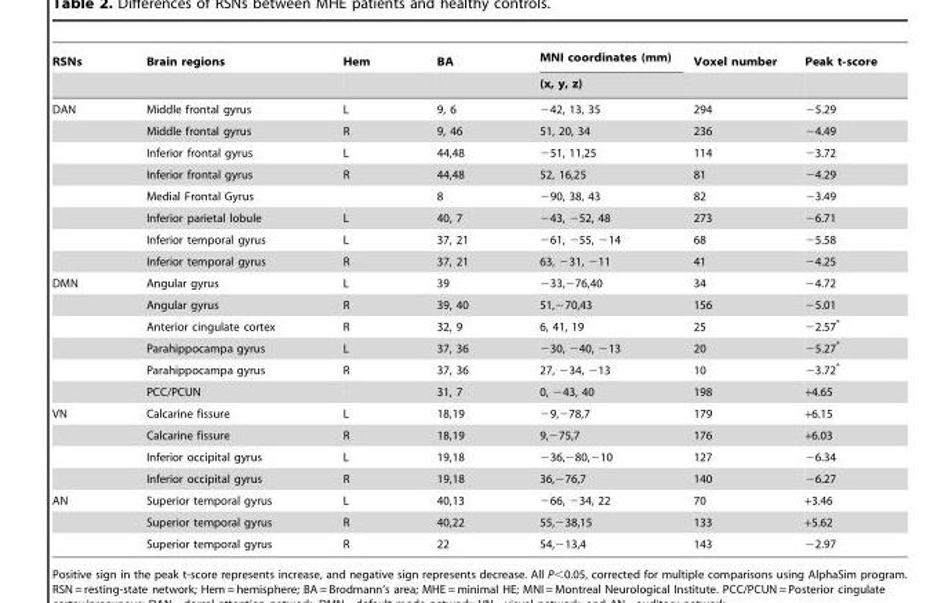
<table><thead><tr><td rowspan="2">RSNs</td><td rowspan="2">Brain regions</td><td rowspan="2">Hem</td><td rowspan="2">BA</td><td rowspan="2">MNI coordinates (mm) (x, y, z)</td><td rowspan="2">Voxel number</td><td rowspan="2">Peak t-score</td></tr><tr></tr></thead><tbody><tr><td rowspan="8">DAN</td><td>Middle frontal gyrus</td><td>L</td><td>9, 6</td><td>−42, 13, 35</td><td>294</td><td>−5.29</td></tr><tr><td>Middle frontal gyrus</td><td>R</td><td>9, 46</td><td>51, 20, 34</td><td>236</td><td>−4.49</td></tr><tr><td>Inferior frontal gyrus</td><td>L</td><td>44,48</td><td>−51, 11,25</td><td>114</td><td>−3.72</td></tr><tr><td>Inferior frontal gyrus</td><td>R</td><td>44,48</td><td>52, 16,25</td><td>81</td><td>−4.29</td></tr><tr><td>Medial Frontal Gyrus</td><td></td><td>8</td><td>−90, 38, 43</td><td>82</td><td>−3.49</td></tr><tr><td>Inferior parietal lobule</td><td>L</td><td>40, 7</td><td>−43, −52, 48</td><td>273</td><td>−6.71</td></tr><tr><td>Inferior temporal gyrus</td><td>L</td><td>37, 21</td><td>−61, −55, −14</td><td>68</td><td>−5.58</td></tr><tr><td>Inferior temporal gyrus</td><td>R</td><td>37, 21</td><td>63, −31, −11</td><td>41</td><td>−4.25</td></tr><tr><td rowspan="6">DMN</td><td>Angular gyrus</td><td>L</td><td>39</td><td>−33,−76,40</td><td>34</td><td>−4.72</td></tr><tr><td>Angular gyrus</td><td>R</td><td>39, 40</td><td>51,−70,43</td><td>156</td><td>−5.01</td></tr><tr><td>Anterior cingulate cortex</td><td>R</td><td>32, 9</td><td>6, 41, 19</td><td>25</td><td>−2.57*</td></tr><tr><td>Parahippocampa gyrus</td><td>L</td><td>37, 36</td><td>−30, −40, −13</td><td>20</td><td>−5.27*</td></tr><tr><td>Parahippocampa gyrus</td><td>R</td><td>37, 36</td><td>27, −34, −13</td><td>10</td><td>−3.72*</td></tr><tr><td>PCC/PCUN</td><td></td><td>31, 7</td><td>0, −43, 40</td><td>198</td><td>+4.65</td></tr><tr><td rowspan="4">VN</td><td>Calcarine fissure</td><td>L</td><td>18,19</td><td>−9,−78,7</td><td>179</td><td>+6.15</td></tr><tr><td>Calcarine fissure</td><td>R</td><td>18,19</td><td>9,−75,7</td><td>176</td><td>+6.03</td></tr><tr><td>Inferior occipital gyrus</td><td>L</td><td>19,18</td><td>−36,−80,−10</td><td>127</td><td>−6.34</td></tr><tr><td>Inferior occipital gyrus</td><td>R</td><td>19,18</td><td>36,−76,7</td><td>140</td><td>−6.27</td></tr><tr><td rowspan="3">AN</td><td>Superior temporal gyrus</td><td>L</td><td>40,13</td><td>−66, −34, 22</td><td>70</td><td>+3.46</td></tr><tr><td>Superior temporal gyrus</td><td>R</td><td>40,22</td><td>55,−38,15</td><td>133</td><td>+5.62</td></tr><tr><td>Superior temporal gyrus</td><td>R</td><td>22</td><td>54,−13,4</td><td>143</td><td>−2.97</td></tr></tbody></table>